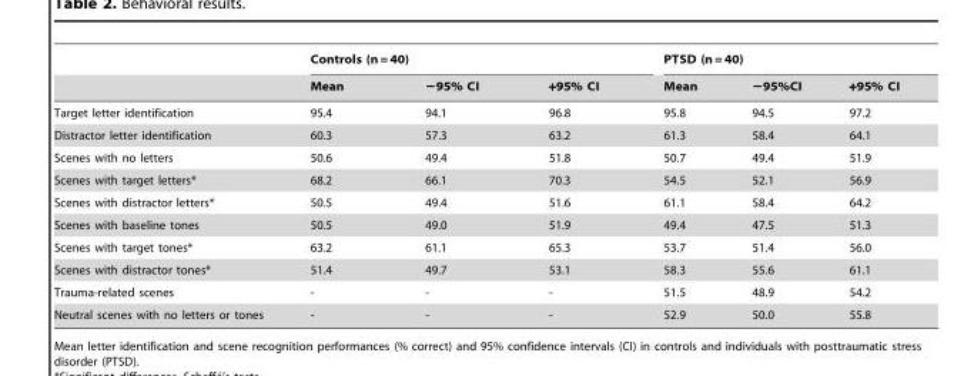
<table><thead><tr><td rowspan="2"></td><td colspan="3">Controls (n = 40)</td><td colspan="3">PTSD (n = 40)</td></tr><tr><td>Mean</td><td>−95% CI</td><td>+95% CI</td><td>Mean</td><td>−95%CI</td><td>+95% CI</td></tr></thead><tbody><tr><td>Target letter identification</td><td>95.4</td><td>94.1</td><td>96.8</td><td>95.8</td><td>94.5</td><td>97.2</td></tr><tr><td>Distractor letter identification</td><td>60.3</td><td>57.3</td><td>63.2</td><td>61.3</td><td>58.4</td><td>64.1</td></tr><tr><td>Scenes with no letters</td><td>50.6</td><td>49.4</td><td>51.8</td><td>50.7</td><td>49.4</td><td>51.9</td></tr><tr><td>Scenes with target letters*</td><td>68.2</td><td>66.1</td><td>70.3</td><td>54.5</td><td>52.1</td><td>56.9</td></tr><tr><td>Scenes with distractor letters*</td><td>50.5</td><td>49.4</td><td>51.6</td><td>61.1</td><td>58.4</td><td>64.2</td></tr><tr><td>Scenes with baseline tones</td><td>50.5</td><td>49.0</td><td>51.9</td><td>49.4</td><td>47.5</td><td>51.3</td></tr><tr><td>Scenes with target tones*</td><td>63.2</td><td>61.1</td><td>65.3</td><td>53.7</td><td>51.4</td><td>56.0</td></tr><tr><td>Scenes with distractor tones*</td><td>51.4</td><td>49.7</td><td>53.1</td><td>58.3</td><td>55.6</td><td>61.1</td></tr><tr><td>Trauma-related scenes</td><td>-</td><td>-</td><td>-</td><td>51.5</td><td>48.9</td><td>54.2</td></tr><tr><td>Neutral scenes with no letters or tones</td><td>-</td><td>-</td><td>-</td><td>52.9</td><td>50.0</td><td>55.8</td></tr></tbody></table>